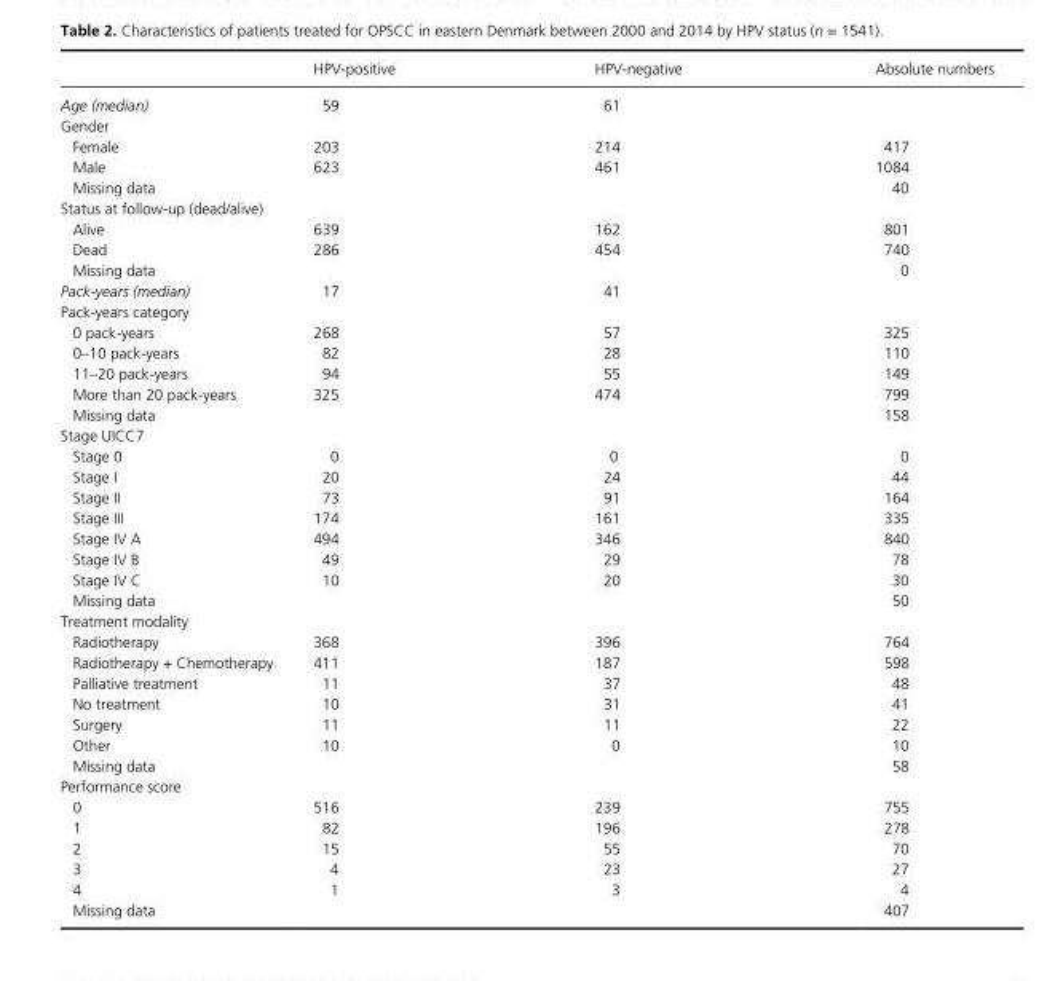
<table><thead><tr><td></td><td>HPV- positive</td><td>HPV- negative</td><td>Absolute numbers</td></tr></thead><tbody><tr><td>Age (median)</td><td>59</td><td>61</td><td></td></tr><tr><td colspan="4">Gender</td></tr><tr><td>Female</td><td>203</td><td>214</td><td>417</td></tr><tr><td>Male</td><td>623</td><td>461</td><td>1084</td></tr><tr><td>Missing data</td><td></td><td></td><td>40</td></tr><tr><td colspan="4">Status at follow- up (dead/alive)</td></tr><tr><td>Alive</td><td>639</td><td>162</td><td>801</td></tr><tr><td>Dead</td><td>286</td><td>454</td><td>740</td></tr><tr><td>Missing data</td><td></td><td></td><td>0</td></tr><tr><td>Pack-years (median)</td><td>17</td><td>41</td><td></td></tr><tr><td colspan="4">Pack- years category</td></tr><tr><td>0 pack- years</td><td>268</td><td>57</td><td>325</td></tr><tr><td>0–10 pack- years</td><td>82</td><td>28</td><td>110</td></tr><tr><td>11–20 pack- years</td><td>94</td><td>55</td><td>149</td></tr><tr><td>More than 20 pack- years</td><td>325</td><td>474</td><td>799</td></tr><tr><td>Missing data</td><td></td><td></td><td>158</td></tr><tr><td colspan="4">Stage UICC7</td></tr><tr><td>Stage 0</td><td>0</td><td>0</td><td>0</td></tr><tr><td>Stage I</td><td>20</td><td>24</td><td>44</td></tr><tr><td>Stage II</td><td>73</td><td>91</td><td>164</td></tr><tr><td>Stage III</td><td>174</td><td>161</td><td>335</td></tr><tr><td>Stage IV A</td><td>494</td><td>346</td><td>840</td></tr><tr><td>Stage IV B</td><td>49</td><td>29</td><td>78</td></tr><tr><td>Stage IV C</td><td>10</td><td>20</td><td>30</td></tr><tr><td>Missing data</td><td></td><td></td><td>50</td></tr><tr><td colspan="4">Treatment modality</td></tr><tr><td>Radiotherapy</td><td>368</td><td>396</td><td>764</td></tr><tr><td>Radiotherapy + Chemotherapy</td><td>411</td><td>187</td><td>598</td></tr><tr><td>Palliative treatment</td><td>11</td><td>37</td><td>48</td></tr><tr><td>No treatment</td><td>10</td><td>31</td><td>41</td></tr><tr><td>Surgery</td><td>11</td><td>11</td><td>22</td></tr><tr><td>Other</td><td>10</td><td>0</td><td>10</td></tr><tr><td>Missing data</td><td></td><td></td><td>58</td></tr><tr><td colspan="4">Performance score</td></tr><tr><td>0</td><td>516</td><td>239</td><td>755</td></tr><tr><td>1</td><td>82</td><td>196</td><td>278</td></tr><tr><td>2</td><td>15</td><td>55</td><td>70</td></tr><tr><td>3</td><td>4</td><td>23</td><td>27</td></tr><tr><td>4</td><td>1</td><td>3</td><td>4</td></tr><tr><td>Missing data</td><td></td><td></td><td>407</td></tr></tbody></table>